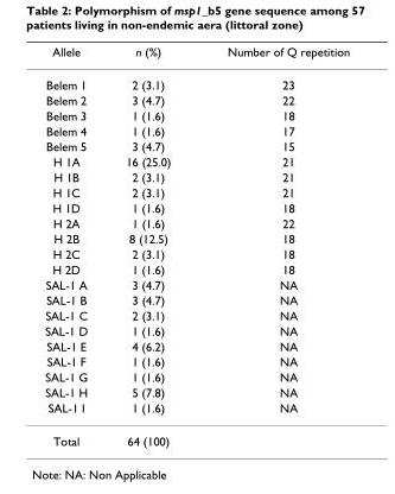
<table><thead><tr><td>Allele</td><td>n (%)</td><td>Number of Q repetition</td></tr></thead><tbody><tr><td>Belem 1</td><td>2 (3.1)</td><td>23</td></tr><tr><td>Belem 2</td><td>3 (4.7)</td><td>22</td></tr><tr><td>Belem 3</td><td>1 (1.6)</td><td>18</td></tr><tr><td>Belem 4</td><td>1 (1.6)</td><td>17</td></tr><tr><td>Belem 5</td><td>3 (4.7)</td><td>15</td></tr><tr><td>H 1A</td><td>16 (25.0)</td><td>21</td></tr><tr><td>H 1B</td><td>2 (3.1)</td><td>21</td></tr><tr><td>H 1C</td><td>2 (3.1)</td><td>21</td></tr><tr><td>H 1D</td><td>1 (1.6)</td><td>18</td></tr><tr><td>H 2A</td><td>1 (1.6)</td><td>22</td></tr><tr><td>H 2B</td><td>8 (12.5)</td><td>18</td></tr><tr><td>H 2C</td><td>2 (3.1)</td><td>18</td></tr><tr><td>H 2D</td><td>1 (1.6)</td><td>18</td></tr><tr><td>SAL-1 A</td><td>3 (4.7)</td><td>NA</td></tr><tr><td>SAL-1 B</td><td>3 (4.7)</td><td>NA</td></tr><tr><td>SAL-1 C</td><td>2 (3.1)</td><td>NA</td></tr><tr><td>SAL-1 D</td><td>1 (1.6)</td><td>NA</td></tr><tr><td>SAL-1 E</td><td>4 (6.2)</td><td>NA</td></tr><tr><td>SAL-1 F</td><td>1 (1.6)</td><td>NA</td></tr><tr><td>SAL-1 G</td><td>1 (1.6)</td><td>NA</td></tr><tr><td>SAL-1 H</td><td>5 (7.8)</td><td>NA</td></tr><tr><td>SAL-1 I</td><td>1 (1.6)</td><td>NA</td></tr><tr><td>Total</td><td>64 (100)</td><td></td></tr></tbody></table>